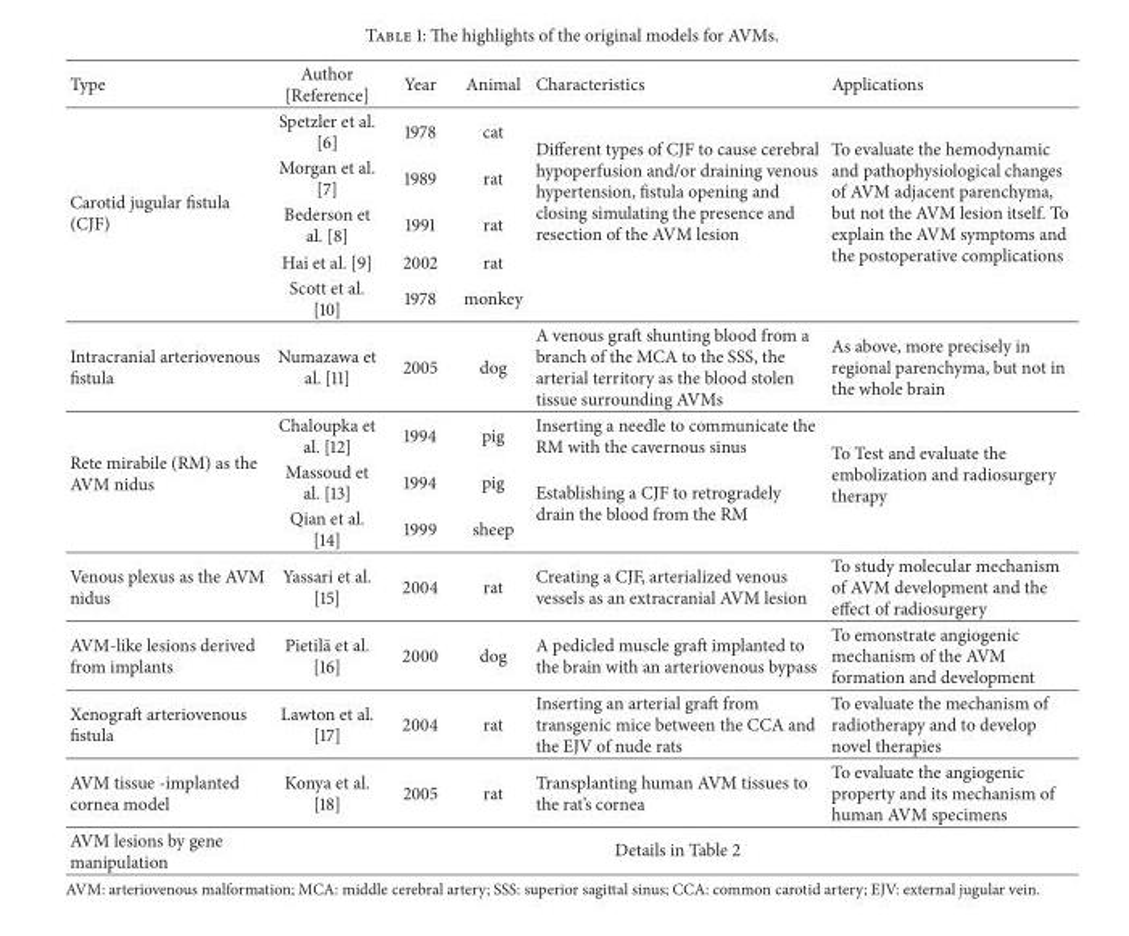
<table><thead><tr><td>Type</td><td>Author [Reference]</td><td>Year</td><td>Animal</td><td>Characteristics</td><td>Applications</td></tr></thead><tbody><tr><td rowspan="5">Carotid jugular fistula (CJF)</td><td>Spetzler et al. [6]</td><td>1978</td><td>cat</td><td rowspan="5">Different types of CJF to cause cerebral hypoperfusion and/or draining venous hypertension, fistula opening and closing simulating the presence and resection of the AVM lesion</td><td rowspan="5">To evaluate the hemodynamic and pathophysiological changes of AVM adjacent parenchyma, but not the AVM lesion itself. To explain the AVM symptoms and the postoperative complications</td></tr><tr><td>Morgan et al. [7]</td><td>1989</td><td>rat</td></tr><tr><td>Bederson et al. [8]</td><td>1991</td><td>rat</td></tr><tr><td>Hai et al. [9]</td><td>2002</td><td>rat</td></tr><tr><td>Scott et al. [10]</td><td>1978</td><td>monkey</td></tr><tr><td>Intracranial arteriovenous fistula</td><td>Numazawa et al. [11]</td><td>2005</td><td>dog</td><td>A venous graft shunting blood from a branch of the MCA to the SSS, the arterial territory as the blood stolen tissue surrounding AVMs</td><td>As above, more precisely in regional parenchyma, but not in the whole brain</td></tr><tr><td rowspan="3">Rete mirabile (RM) as the AVM nidus</td><td>Chaloupka et al. [12]</td><td>1994</td><td>pig</td><td>Inserting a needle to communicate the RM with the cavernous sinus</td><td rowspan="3">To Test and evaluate the embolization and radiosurgery therapy</td></tr><tr><td>Massoud et al. [13]</td><td>1994</td><td>pig</td><td rowspan="2">Establishing a CJF to retrogradely drain the blood from the RM</td></tr><tr><td>Qian et al. [14]</td><td>1999</td><td>sheep</td></tr><tr><td>Venous plexus as the AVM nidus</td><td>Yassari et al. [15]</td><td>2004</td><td>rat</td><td>Creating a CJF, arterialized venous vessels as an extracranial AVM lesion</td><td>To study molecular mechanism of AVM development and the effect of radiosurgery</td></tr><tr><td>AVM-like lesions derived from implants</td><td>Pietil¨a et al. [16]</td><td>2000</td><td>dog</td><td>A pedicled muscle graft implanted to the brain with an arteriovenous bypass</td><td>To emonstrate angiogenic mechanism of the AVM formation and development</td></tr><tr><td>Xenograft arteriovenous fistula</td><td>Lawton et al. [17]</td><td>2004</td><td>rat</td><td>Inserting an arterial graft from transgenic mice between the CCA and the EJV of nude rats</td><td>To evaluate the mechanism of radiotherapy and to develop novel therapies</td></tr><tr><td>AVM tissue -implanted cornea model</td><td>Konya et al. [18]</td><td>2005</td><td>rat</td><td>Transplanting human AVM tissues to the rat’s cornea</td><td>To evaluate the angiogenic property and its mechanism of human AVM specimens</td></tr><tr><td>AVM lesions by gene manipulation</td><td colspan="5">Details in Table 2</td></tr></tbody></table>